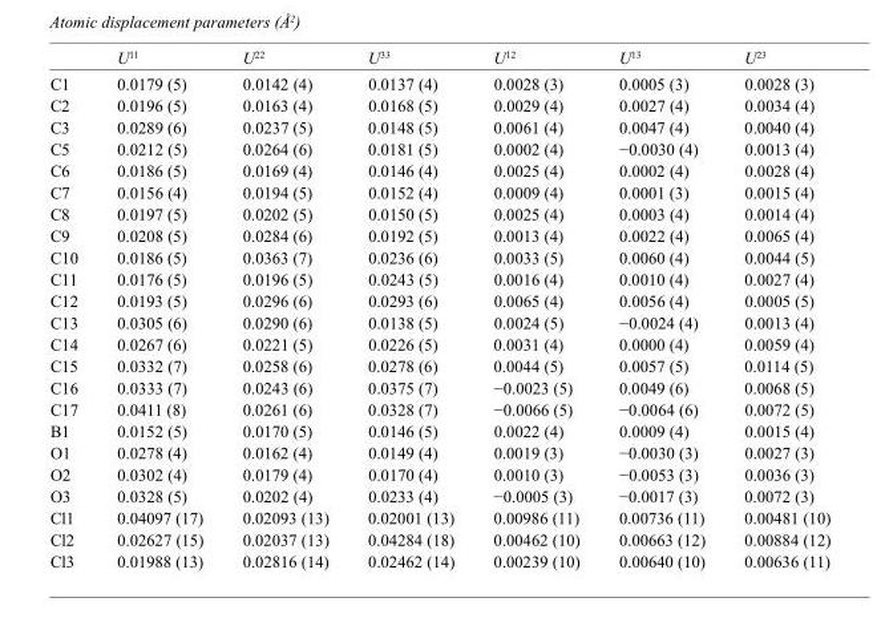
<table><thead><tr><td></td><td>U<sup>11</sup></td><td>U<sup>22</sup></td><td>U<sup>33</sup></td><td>U<sup>12</sup></td><td>U<sup>13</sup></td><td>U<sup>23</sup></td></tr></thead><tbody><tr><td>C1</td><td>0.0179 (5)</td><td>0.0142 (4)</td><td>0.0137 (4)</td><td>0.0028 (3)</td><td>0.0005 (3)</td><td>0.0028 (3)</td></tr><tr><td>C2</td><td>0.0196 (5)</td><td>0.0163 (4)</td><td>0.0168 (5)</td><td>0.0029 (4)</td><td>0.0027 (4)</td><td>0.0034 (4)</td></tr><tr><td>C3</td><td>0.0289 (6)</td><td>0.0237 (5)</td><td>0.0148 (5)</td><td>0.0061 (4)</td><td>0.0047 (4)</td><td>0.0040 (4)</td></tr><tr><td>C5</td><td>0.0212 (5)</td><td>0.0264 (6)</td><td>0.0181 (5)</td><td>0.0002 (4)</td><td>−0.0030 (4)</td><td>0.0013 (4)</td></tr><tr><td>C6</td><td>0.0186 (5)</td><td>0.0169 (4)</td><td>0.0146 (4)</td><td>0.0025 (4)</td><td>0.0002 (4)</td><td>0.0028 (4)</td></tr><tr><td>C7</td><td>0.0156 (4)</td><td>0.0194 (5)</td><td>0.0152 (4)</td><td>0.0009 (4)</td><td>0.0001 (3)</td><td>0.0015 (4)</td></tr><tr><td>C8</td><td>0.0197 (5)</td><td>0.0202 (5)</td><td>0.0150 (5)</td><td>0.0025 (4)</td><td>0.0003 (4)</td><td>0.0014 (4)</td></tr><tr><td>C9</td><td>0.0208 (5)</td><td>0.0284 (6)</td><td>0.0192 (5)</td><td>0.0013 (4)</td><td>0.0022 (4)</td><td>0.0065 (4)</td></tr><tr><td>C10</td><td>0.0186 (5)</td><td>0.0363 (7)</td><td>0.0236 (6)</td><td>0.0033 (5)</td><td>0.0060 (4)</td><td>0.0044 (5)</td></tr><tr><td>C11</td><td>0.0176 (5)</td><td>0.0196 (5)</td><td>0.0243 (5)</td><td>0.0016 (4)</td><td>0.0010 (4)</td><td>0.0027 (4)</td></tr><tr><td>C12</td><td>0.0193 (5)</td><td>0.0296 (6)</td><td>0.0293 (6)</td><td>0.0065 (4)</td><td>0.0056 (4)</td><td>0.0005 (5)</td></tr><tr><td>C13</td><td>0.0305 (6)</td><td>0.0290 (6)</td><td>0.0138 (5)</td><td>0.0024 (5)</td><td>−0.0024 (4)</td><td>0.0013 (4)</td></tr><tr><td>C14</td><td>0.0267 (6)</td><td>0.0221 (5)</td><td>0.0226 (5)</td><td>0.0031 (4)</td><td>0.0000 (4)</td><td>0.0059 (4)</td></tr><tr><td>C15</td><td>0.0332 (7)</td><td>0.0258 (6)</td><td>0.0278 (6)</td><td>0.0044 (5)</td><td>0.0057 (5)</td><td>0.0114 (5)</td></tr><tr><td>C16</td><td>0.0333 (7)</td><td>0.0243 (6)</td><td>0.0375 (7)</td><td>−0.0023 (5)</td><td>0.0049 (6)</td><td>0.0068 (5)</td></tr><tr><td>C17</td><td>0.0411 (8)</td><td>0.0261 (6)</td><td>0.0328 (7)</td><td>−0.0066 (5)</td><td>−0.0064 (6)</td><td>0.0072 (5)</td></tr><tr><td>B1</td><td>0.0152 (5)</td><td>0.0170 (5)</td><td>0.0146 (5)</td><td>0.0022 (4)</td><td>0.0009 (4)</td><td>0.0015 (4)</td></tr><tr><td>O1</td><td>0.0278 (4)</td><td>0.0162 (4)</td><td>0.0149 (4)</td><td>0.0019 (3)</td><td>−0.0030 (3)</td><td>0.0027 (3)</td></tr><tr><td>O2</td><td>0.0302 (4)</td><td>0.0179 (4)</td><td>0.0170 (4)</td><td>0.0010 (3)</td><td>−0.0053 (3)</td><td>0.0036 (3)</td></tr><tr><td>O3</td><td>0.0328 (5)</td><td>0.0202 (4)</td><td>0.0233 (4)</td><td>−0.0005 (3)</td><td>−0.0017 (3)</td><td>0.0072 (3)</td></tr><tr><td>Cl1</td><td>0.04097 (17)</td><td>0.02093 (13)</td><td>0.02001 (13)</td><td>0.00986 (11)</td><td>0.00736 (11)</td><td>0.00481 (10)</td></tr><tr><td>Cl2</td><td>0.02627 (15)</td><td>0.02037 (13)</td><td>0.04284 (18)</td><td>0.00462 (10)</td><td>0.00663 (12)</td><td>0.00884 (12)</td></tr><tr><td>Cl3</td><td>0.01988 (13)</td><td>0.02816 (14)</td><td>0.02462 (14)</td><td>0.00239 (10)</td><td>0.00640 (10)</td><td>0.00636 (11)</td></tr></tbody></table>